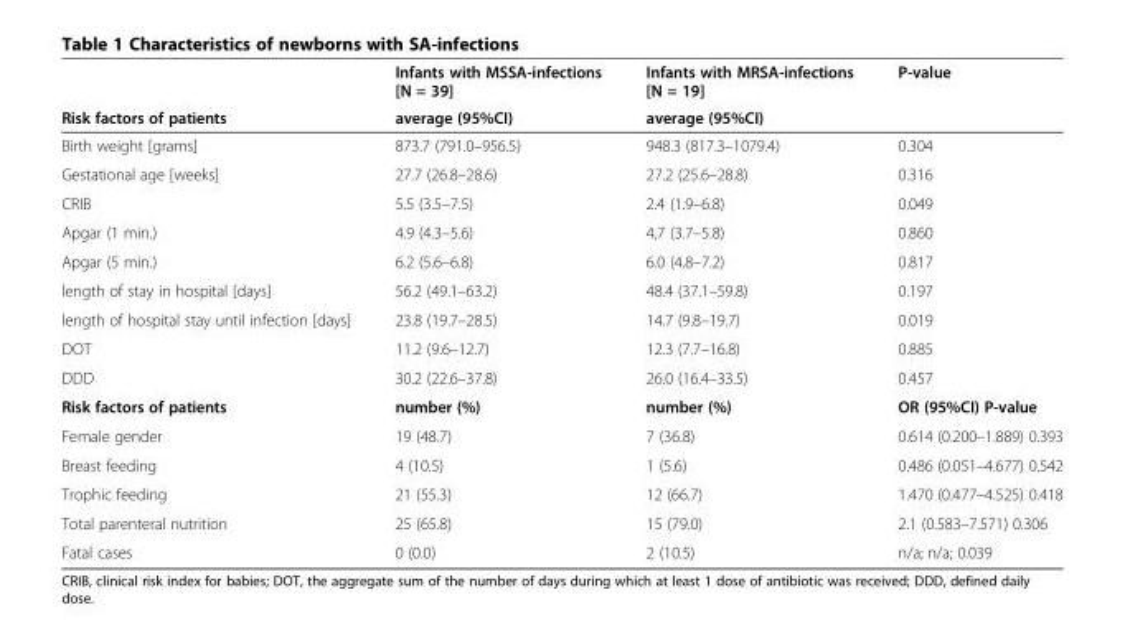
<table><thead><tr><td rowspan="2">Risk factors of patients</td><td rowspan="2">Infants with MSSA-infections [N = 39] average (95%CI)</td><td rowspan="2">Infants with MRSA-infections [N = 19] average (95%CI)</td><td rowspan="2">P-value</td></tr><tr></tr></thead><tbody><tr><td>Birth weight [grams]</td><td>873.7 (791.0–956.5)</td><td>948.3 (817.3–1079.4)</td><td>0.304</td></tr><tr><td>Gestational age [weeks]</td><td>27.7 (26.8–28.6)</td><td>27.2 (25.6–28.8)</td><td>0.316</td></tr><tr><td>CRIB</td><td>5.5 (3.5–7.5)</td><td>2.4 (1.9–6.8)</td><td>0.049</td></tr><tr><td>Apgar (1 min.)</td><td>4.9 (4.3–5.6)</td><td>4,7 (3.7–5.8)</td><td>0.860</td></tr><tr><td>Apgar (5 min.)</td><td>6.2 (5.6–6.8)</td><td>6.0 (4.8–7.2)</td><td>0.817</td></tr><tr><td>length of stay in hospital [days]</td><td>56.2 (49.1–63.2)</td><td>48.4 (37.1–59.8)</td><td>0.197</td></tr><tr><td>length of hospital stay until infection [days]</td><td>23.8 (19.7–28.5)</td><td>14.7 (9.8–19.7)</td><td>0.019</td></tr><tr><td>DOT</td><td>11.2 (9.6–12.7)</td><td>12.3 (7.7–16.8)</td><td>0.885</td></tr><tr><td>DDD</td><td>30.2 (22.6–37.8)</td><td>26.0 (16.4–33.5)</td><td>0.457</td></tr><tr><td>Risk factors of patients</td><td>number (%)</td><td>number (%)</td><td>OR (95%CI) P-value</td></tr><tr><td>Female gender</td><td>19 (48.7)</td><td>7 (36.8)</td><td>0.614 (0.200–1.889) 0.393</td></tr><tr><td>Breast feeding</td><td>4 (10.5)</td><td>1 (5.6)</td><td>0.486 (0.051–4.677) 0.542</td></tr><tr><td>Trophic feeding</td><td>21 (55.3)</td><td>12 (66.7)</td><td>1.470 (0.477–4.525) 0.418</td></tr><tr><td>Total parenteral nutrition</td><td>25 (65.8)</td><td>15 (79.0)</td><td>2.1 (0.583–7.571) 0.306</td></tr><tr><td>Fatal cases</td><td>0 (0.0)</td><td>2 (10.5)</td><td>n/a; n/a; 0.039</td></tr></tbody></table>